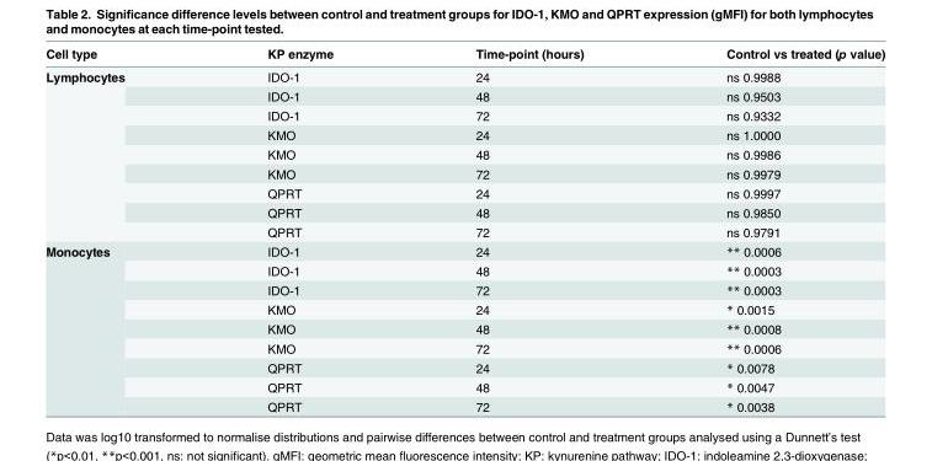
<table><thead><tr><td>Cell type</td><td>KP enzyme</td><td>Time-point (hours)</td><td>Control vs treated (p value)</td></tr></thead><tbody><tr><td rowspan="9">Lymphocytes</td><td>IDO-1</td><td>24</td><td>ns 0.9988</td></tr><tr><td>IDO-1</td><td>48</td><td>ns 0.9503</td></tr><tr><td>IDO-1</td><td>72</td><td>ns 0.9332</td></tr><tr><td>KMO</td><td>24</td><td>ns 1.0000</td></tr><tr><td>KMO</td><td>48</td><td>ns 0.9986</td></tr><tr><td>KMO</td><td>72</td><td>ns 0.9979</td></tr><tr><td>QPRT</td><td>24</td><td>ns 0.9997</td></tr><tr><td>QPRT</td><td>48</td><td>ns 0.9850</td></tr><tr><td>QPRT</td><td>72</td><td>ns 0.9791</td></tr><tr><td rowspan="9">Monocytes</td><td>IDO-1</td><td>24</td><td>** 0.0006</td></tr><tr><td>IDO-1</td><td>48</td><td>** 0.0003</td></tr><tr><td>IDO-1</td><td>72</td><td>** 0.0003</td></tr><tr><td>KMO</td><td>24</td><td>* 0.0015</td></tr><tr><td>KMO</td><td>48</td><td>** 0.0008</td></tr><tr><td>KMO</td><td>72</td><td>** 0.0006</td></tr><tr><td>QPRT</td><td>24</td><td>* 0.0078</td></tr><tr><td>QPRT</td><td>48</td><td>* 0.0047</td></tr><tr><td>QPRT</td><td>72</td><td>* 0.0038</td></tr></tbody></table>